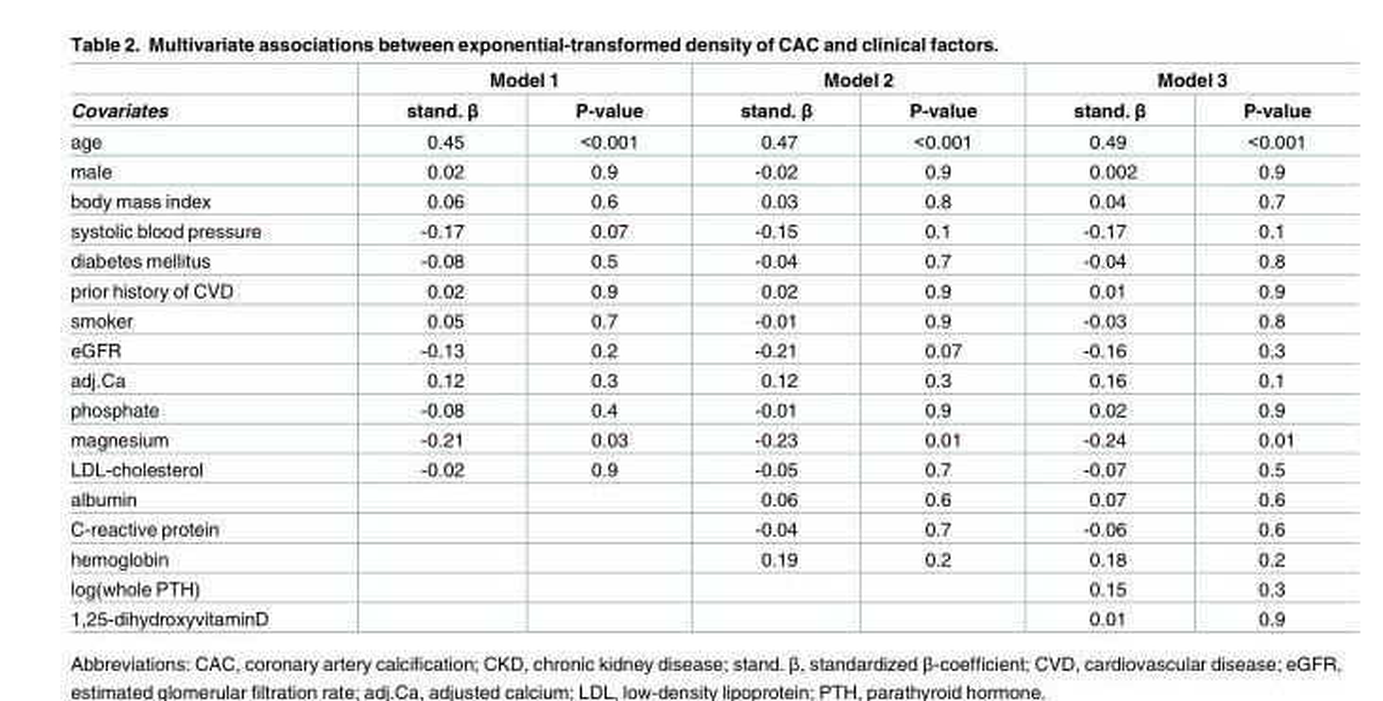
<table><thead><tr><td rowspan="2">Covariates</td><td colspan="2">Model 1</td><td colspan="2">Model 2</td><td colspan="2">Model 3</td></tr><tr><td>stand. β</td><td>P-value</td><td>stand. β</td><td>P-value</td><td>stand. β</td><td>P-value</td></tr></thead><tbody><tr><td>age</td><td>0.45</td><td>&lt;0.001</td><td>0.47</td><td>&lt;0.001</td><td>0.49</td><td>&lt;0.001</td></tr><tr><td>male</td><td>0.02</td><td>0.9</td><td>-0.02</td><td>0.9</td><td>0.002</td><td>0.9</td></tr><tr><td>body mass index</td><td>0.06</td><td>0.6</td><td>0.03</td><td>0.8</td><td>0.04</td><td>0.7</td></tr><tr><td>systolic blood pressure</td><td>-0.17</td><td>0.07</td><td>-0.15</td><td>0.1</td><td>-0.17</td><td>0.1</td></tr><tr><td>diabetes mellitus</td><td>-0.08</td><td>0.5</td><td>-0.04</td><td>0.7</td><td>-0.04</td><td>0.8</td></tr><tr><td>prior history of CVD</td><td>0.02</td><td>0.9</td><td>0.02</td><td>0.9</td><td>0.01</td><td>0.9</td></tr><tr><td>smoker</td><td>0.05</td><td>0.7</td><td>-0.01</td><td>0.9</td><td>-0.03</td><td>0.8</td></tr><tr><td>eGFR</td><td>-0.13</td><td>0.2</td><td>-0.21</td><td>0.07</td><td>-0.16</td><td>0.3</td></tr><tr><td>adj.Ca</td><td>0.12</td><td>0.3</td><td>0.12</td><td>0.3</td><td>0.16</td><td>0.1</td></tr><tr><td>phosphate</td><td>-0.08</td><td>0.4</td><td>-0.01</td><td>0.9</td><td>0.02</td><td>0.9</td></tr><tr><td>magnesium</td><td>-0.21</td><td>0.03</td><td>-0.23</td><td>0.01</td><td>-0.24</td><td>0.01</td></tr><tr><td>LDL-cholesterol</td><td>-0.02</td><td>0.9</td><td>-0.05</td><td>0.7</td><td>-0.07</td><td>0.5</td></tr><tr><td>albumin</td><td></td><td></td><td>0.06</td><td>0.6</td><td>0.07</td><td>0.6</td></tr><tr><td>C-reactive protein</td><td></td><td></td><td>-0.04</td><td>0.7</td><td>-0.06</td><td>0.6</td></tr><tr><td>hemoglobin</td><td></td><td></td><td>0.19</td><td>0.2</td><td>0.18</td><td>0.2</td></tr><tr><td>log(whole PTH)</td><td></td><td></td><td></td><td></td><td>0.15</td><td>0.3</td></tr><tr><td>1,25-dihydroxyvitaminD</td><td></td><td></td><td></td><td></td><td>0.01</td><td>0.9</td></tr></tbody></table>